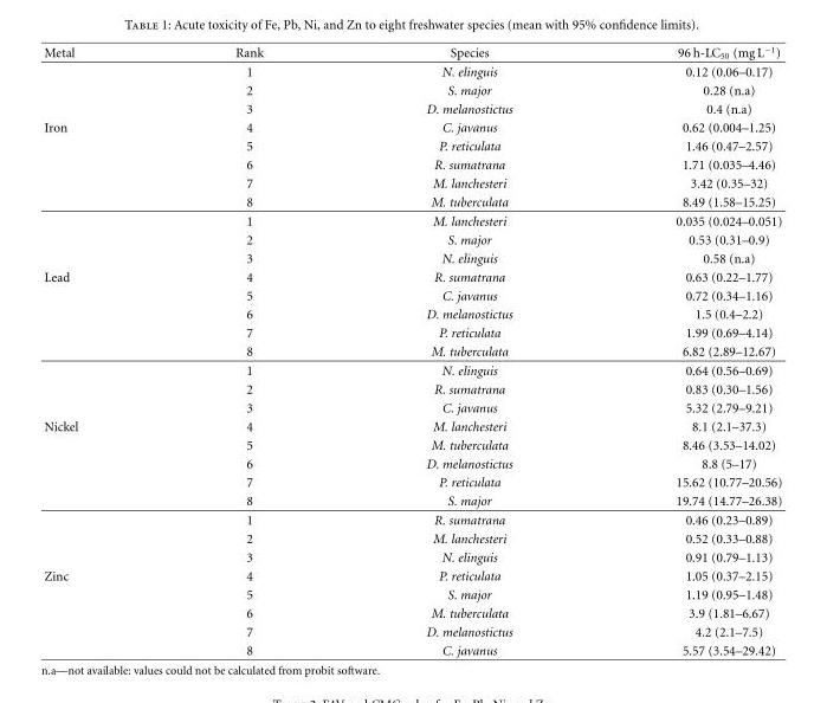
<table><thead><tr><td>Metal</td><td>Rank</td><td>Species</td><td>96 h-LC<sub>50</sub> (mg L<sup>−1</sup>)</td></tr></thead><tbody><tr><td></td><td>1</td><td>N. elinguis</td><td>0.12 (0.06–0.17)</td></tr><tr><td></td><td>2</td><td>S. major</td><td>0.28 (n.a)</td></tr><tr><td></td><td>3</td><td>D. melanostictus</td><td>0.4 (n.a)</td></tr><tr><td rowspan="8">Iron</td><td>4</td><td>C. javanus</td><td>0.62 (0.004–1.25)</td></tr><tr><td>5</td><td>P. reticulata</td><td>1.46 (0.47–2.57)</td></tr><tr><td>6</td><td>R. sumatrana</td><td>1.71 (0.035–4.46)</td></tr><tr><td>7</td><td>M. lanchesteri</td><td>3.42 (0.35–32)</td></tr><tr><td>8</td><td>M. tuberculata</td><td>8.49 (1.58–15.25)</td></tr><tr><td>1</td><td>M. lanchesteri</td><td>0.035 (0.024–0.051)</td></tr><tr><td>2</td><td>S. major</td><td>0.53 (0.31–0.9)</td></tr><tr><td>3</td><td>N. elinguis</td><td>0.58 (n.a)</td></tr><tr><td rowspan="8">Lead</td><td>4</td><td>R. sumatrana</td><td>0.63 (0.22–1.77)</td></tr><tr><td>5</td><td>C. javanus</td><td>0.72 (0.34–1.16)</td></tr><tr><td>6</td><td>D. melanostictus</td><td>1.5 (0.4–2.2)</td></tr><tr><td>7</td><td>P. reticulata</td><td>1.99 (0.69–4.14)</td></tr><tr><td>8</td><td>M. tuberculata</td><td>6.82 (2.89–12.67)</td></tr><tr><td>1</td><td>N. elinguis</td><td>0.64 (0.56–0.69)</td></tr><tr><td>2</td><td>R. sumatrana</td><td>0.83 (0.30–1.56)</td></tr><tr><td>3</td><td>C. javanus</td><td>5.32 (2.79–9.21)</td></tr><tr><td rowspan="8">Nickel</td><td>4</td><td>M. lanchesteri</td><td>8.1 (2.1–37.3)</td></tr><tr><td>5</td><td>M. tuberculata</td><td>8.46 (3.53–14.02)</td></tr><tr><td>6</td><td>D. melanostictus</td><td>8.8 (5–17)</td></tr><tr><td>7</td><td>P. reticulata</td><td>15.62 (10.77–20.56)</td></tr><tr><td>8</td><td>S. major</td><td>19.74 (14.77–26.38)</td></tr><tr><td>1</td><td>R. sumatrana</td><td>0.46 (0.23–0.89)</td></tr><tr><td>2</td><td>M. lanchesteri</td><td>0.52 (0.33–0.88)</td></tr><tr><td>3</td><td>N. elinguis</td><td>0.91 (0.79–1.13)</td></tr><tr><td rowspan="5">Zinc</td><td>4</td><td>P. reticulata</td><td>1.05 (0.37–2.15)</td></tr><tr><td>5</td><td>S. major</td><td>1.19 (0.95–1.48)</td></tr><tr><td>6</td><td>M. tuberculata</td><td>3.9 (1.81–6.67)</td></tr><tr><td>7</td><td>D. melanostictus</td><td>4.2 (2.1–7.5)</td></tr><tr><td>8</td><td>C. javanus</td><td>5.57 (3.54–29.42)</td></tr></tbody></table>